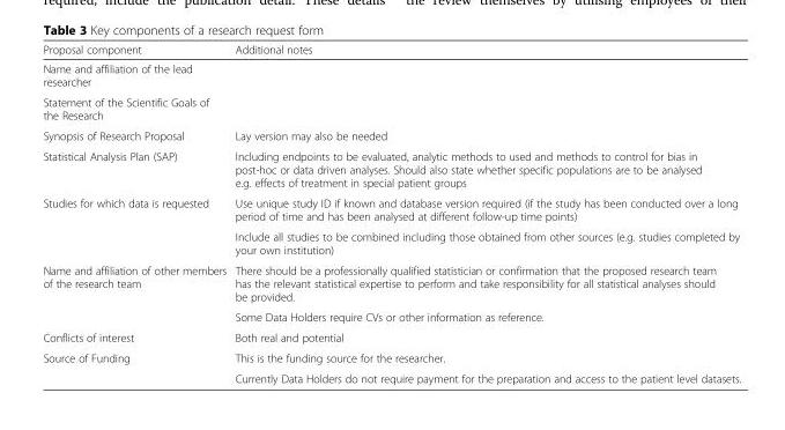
<table><thead><tr><td>Proposal component</td><td>Additional notes</td></tr></thead><tbody><tr><td colspan="2">Name and affiliation of the lead researcher</td></tr><tr><td colspan="2">Statement of the Scientific Goals of the Research</td></tr><tr><td>Synopsis of Research Proposal</td><td>Lay version may also be needed</td></tr><tr><td>Statistical Analysis Plan (SAP)</td><td>Including endpoints to be evaluated, analytic methods to used and methods to control for bias in post-hoc or data driven analyses. Should also state whether specific populations are to be analysed e.g. effects of treatment in special patient groups</td></tr><tr><td rowspan="2">Studies for which data is requested</td><td>Use unique study ID if known and database version required (if the study has been conducted over a long period of time and has been analysed at different follow-up time points)</td></tr><tr><td>Include all studies to be combined including those obtained from other sources (e.g. studies completed by your own institution)</td></tr><tr><td rowspan="2">Name and affiliation of other members of the research team</td><td>There should be a professionally qualified statistician or confirmation that the proposed research team has the relevant statistical expertise to perform and take responsibility for all statistical analyses should be provided.</td></tr><tr><td>Some Data Holders require CVs or other information as reference.</td></tr><tr><td>Conflicts of interest</td><td>Both real and potential</td></tr><tr><td rowspan="2">Source of Funding</td><td>This is the funding source for the researcher.</td></tr><tr><td>Currently Data Holders do not require payment for the preparation and access to the patient level datasets.</td></tr></tbody></table>